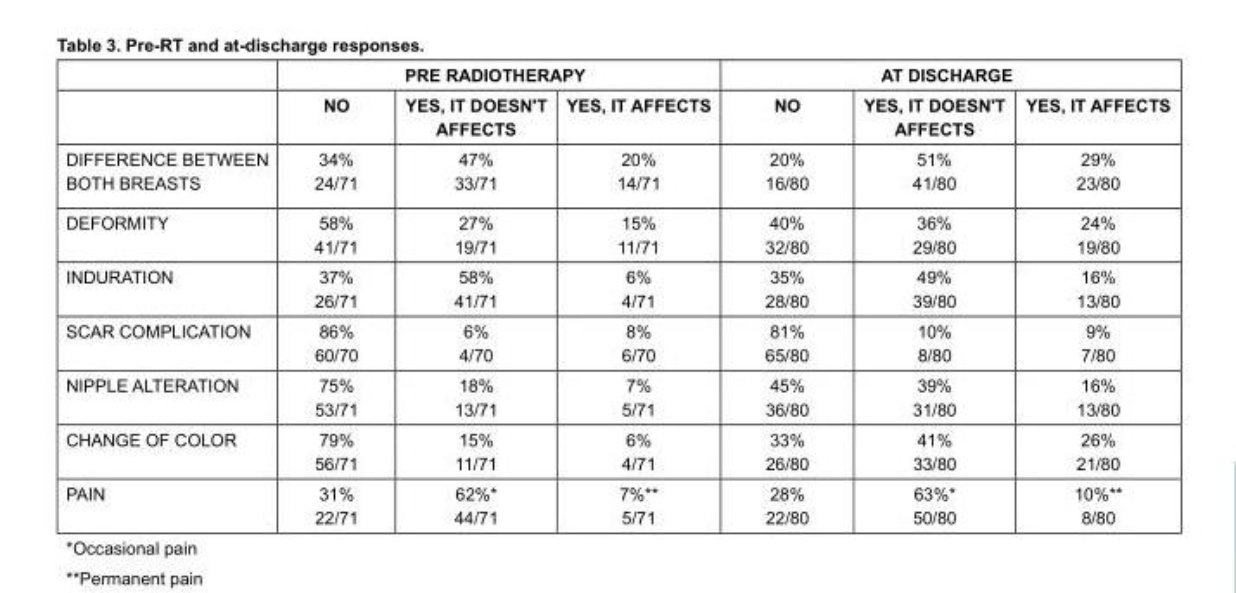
<table><thead><tr><td rowspan="2"></td><td colspan="3">PRE RADIOTHERAPY</td><td colspan="3">AT DISCHARGE</td></tr><tr><td>NO</td><td>YES, IT DOESN&#x27;T AFFECTS</td><td>YES, IT AFFECTS</td><td>NO</td><td>YES, IT DOESN&#x27;T AFFECTS</td><td>YES, IT AFFECTS</td></tr></thead><tbody><tr><td>DIFFERENCE BETWEEN BOTH BREASTS</td><td>34% 24/71</td><td>47% 33/71</td><td>20% 14/71</td><td>20% 16/80</td><td>51% 41/80</td><td>29% 23/80</td></tr><tr><td>DEFORMITY</td><td>58% 41/71</td><td>27% 19/71</td><td>15% 11/71</td><td>40% 32/80</td><td>36% 29/80</td><td>24% 19/80</td></tr><tr><td>INDURATION</td><td>37% 26/71</td><td>58% 41/71</td><td>6% 4/71</td><td>35% 28/80</td><td>49% 39/80</td><td>16% 13/80</td></tr><tr><td>SCAR COMPLICATION</td><td>86% 60/70</td><td>6% 4/70</td><td>8% 6/70</td><td>81% 65/80</td><td>10% 8/80</td><td>9% 7/80</td></tr><tr><td>NIPPLE ALTERATION</td><td>75% 53/71</td><td>18% 13/71</td><td>7% 5/71</td><td>45% 36/80</td><td>39% 31/80</td><td>16% 13/80</td></tr><tr><td>CHANGE OF COLOR</td><td>79% 56/71</td><td>15% 11/71</td><td>6% 4/71</td><td>33% 26/80</td><td>41% 33/80</td><td>26% 21/80</td></tr><tr><td>PAIN</td><td>31% 22/71</td><td>62%* 44/71</td><td>7%** 5/71</td><td>28% 22/80</td><td>63%* 50/80</td><td>10%** 8/80</td></tr></tbody></table>